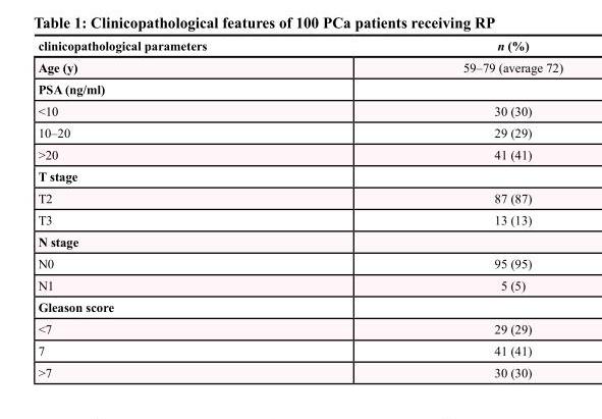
<table><thead><tr><td>clinicopathological parameters</td><td>n (%)</td></tr></thead><tbody><tr><td>Age (y)</td><td>59–79 (average 72)</td></tr><tr><td colspan="2">PSA (ng/ml)</td></tr><tr><td>&lt;10</td><td>30 (30)</td></tr><tr><td>10–20</td><td>29 (29)</td></tr><tr><td>&gt;20</td><td>41 (41)</td></tr><tr><td colspan="2">T stage</td></tr><tr><td>T2</td><td>87 (87)</td></tr><tr><td>T3</td><td>13 (13)</td></tr><tr><td colspan="2">N stage</td></tr><tr><td>N0</td><td>95 (95)</td></tr><tr><td>N1</td><td>5 (5)</td></tr><tr><td colspan="2">Gleason score</td></tr><tr><td>&lt;7</td><td>29 (29)</td></tr><tr><td>7</td><td>41 (41)</td></tr><tr><td>&gt;7</td><td>30 (30)</td></tr></tbody></table>